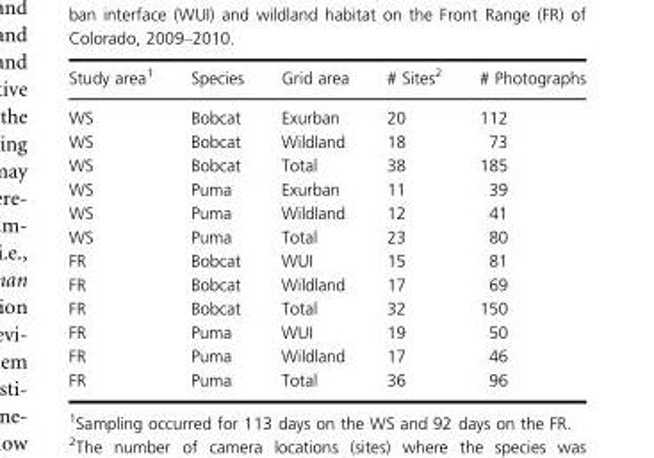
<table><thead><tr><td>Study area1</td><td>Species</td><td>Grid area</td><td># Sites2</td><td># Photographs</td></tr></thead><tbody><tr><td>WS</td><td>Bobcat</td><td>Exurban</td><td>20</td><td>112</td></tr><tr><td>WS</td><td>Bobcat</td><td>Wildland</td><td>18</td><td>73</td></tr><tr><td>WS</td><td>Bobcat</td><td>Total</td><td>38</td><td>185</td></tr><tr><td>WS</td><td>Puma</td><td>Exurban</td><td>11</td><td>39</td></tr><tr><td>WS</td><td>Puma</td><td>Wildland</td><td>12</td><td>41</td></tr><tr><td>WS</td><td>Puma</td><td>Total</td><td>23</td><td>80</td></tr><tr><td>FR</td><td>Bobcat</td><td>WUI</td><td>15</td><td>81</td></tr><tr><td>FR</td><td>Bobcat</td><td>Wildland</td><td>17</td><td>69</td></tr><tr><td>FR</td><td>Bobcat</td><td>Total</td><td>32</td><td>150</td></tr><tr><td>FR</td><td>Puma</td><td>WUI</td><td>19</td><td>50</td></tr><tr><td>FR</td><td>Puma</td><td>Wildland</td><td>17</td><td>46</td></tr><tr><td>FR</td><td>Puma</td><td>Total</td><td>36</td><td>96</td></tr></tbody></table>